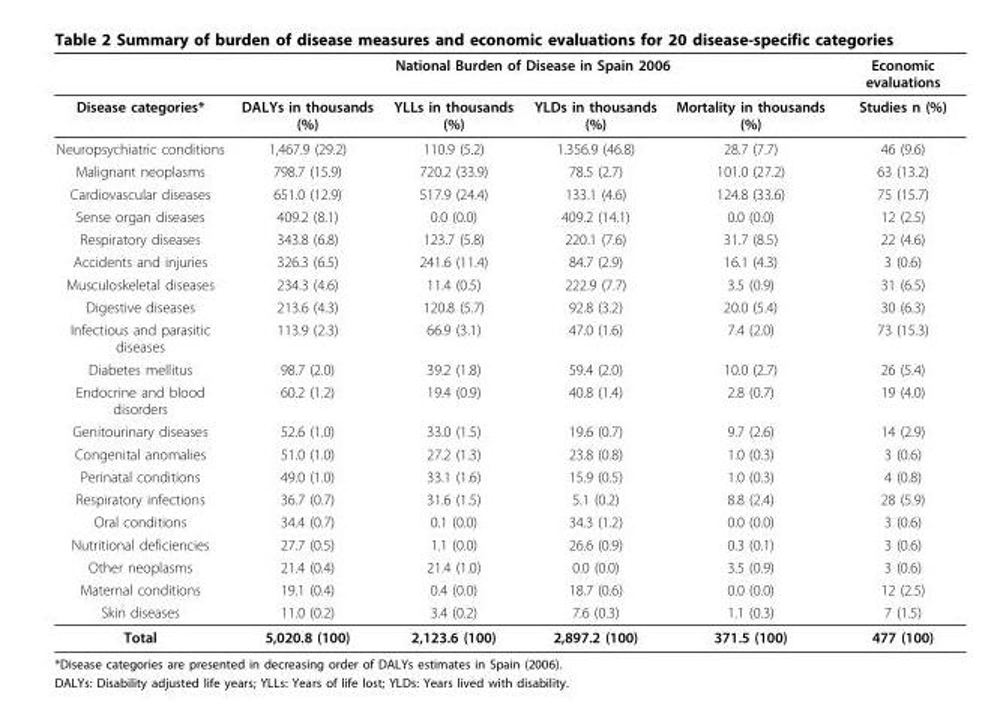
<table><thead><tr><td rowspan="2">Disease categories*</td><td colspan="4">National Burden of Disease in Spain 2006</td><td rowspan="2">Economic evaluations Studies n (%)</td></tr><tr><td>DALYs in thousands (%)</td><td>YLLs in thousands (%)</td><td>YLDs in thousands (%)</td><td>Mortality in thousands (%)</td></tr></thead><tbody><tr><td>Neuropsychiatric conditions</td><td>1,467.9 (29.2)</td><td>110.9 (5.2)</td><td>1.356.9 (46.8)</td><td>28.7 (7.7)</td><td>46 (9.6)</td></tr><tr><td>Malignant neoplasms</td><td>798.7 (15.9)</td><td>720.2 (33.9)</td><td>78.5 (2.7)</td><td>101.0 (27.2)</td><td>63 (13.2)</td></tr><tr><td>Cardiovascular diseases</td><td>651.0 (12.9)</td><td>517.9 (24.4)</td><td>133.1 (4.6)</td><td>124.8 (33.6)</td><td>75 (15.7)</td></tr><tr><td>Sense organ diseases</td><td>409.2 (8.1)</td><td>0.0 (0.0)</td><td>409.2 (14.1)</td><td>0.0 (0.0)</td><td>12 (2.5)</td></tr><tr><td>Respiratory diseases</td><td>343.8 (6.8)</td><td>123.7 (5.8)</td><td>220.1 (7.6)</td><td>31.7 (8.5)</td><td>22 (4.6)</td></tr><tr><td>Accidents and injuries</td><td>326.3 (6.5)</td><td>241.6 (11.4)</td><td>84.7 (2.9)</td><td>16.1 (4.3)</td><td>3 (0.6)</td></tr><tr><td>Musculoskeletal diseases</td><td>234.3 (4.6)</td><td>11.4 (0.5)</td><td>222.9 (7.7)</td><td>3.5 (0.9)</td><td>31 (6.5)</td></tr><tr><td>Digestive diseases</td><td>213.6 (4.3)</td><td>120.8 (5.7)</td><td>92.8 (3.2)</td><td>20.0 (5.4)</td><td>30 (6.3)</td></tr><tr><td>Infectious and parasitic diseases</td><td>113.9 (2.3)</td><td>66.9 (3.1)</td><td>47.0 (1.6)</td><td>7.4 (2.0)</td><td>73 (15.3)</td></tr><tr><td>Diabetes mellitus</td><td>98.7 (2.0)</td><td>39.2 (1.8)</td><td>59.4 (2.0)</td><td>10.0 (2.7)</td><td>26 (5.4)</td></tr><tr><td>Endocrine and blood disorders</td><td>60.2 (1.2)</td><td>19.4 (0.9)</td><td>40.8 (1.4)</td><td>2.8 (0.7)</td><td>19 (4.0)</td></tr><tr><td>Genitourinary diseases</td><td>52.6 (1.0)</td><td>33.0 (1.5)</td><td>19.6 (0.7)</td><td>9.7 (2.6)</td><td>14 (2.9)</td></tr><tr><td>Congenital anomalies</td><td>51.0 (1.0)</td><td>27.2 (1.3)</td><td>23.8 (0.8)</td><td>1.0 (0.3)</td><td>3 (0.6)</td></tr><tr><td>Perinatal conditions</td><td>49.0 (1.0)</td><td>33.1 (1.6)</td><td>15.9 (0.5)</td><td>1.0 (0.3)</td><td>4 (0.8)</td></tr><tr><td>Respiratory infections</td><td>36.7 (0.7)</td><td>31.6 (1.5)</td><td>5.1 (0.2)</td><td>8.8 (2.4)</td><td>28 (5.9)</td></tr><tr><td>Oral conditions</td><td>34.4 (0.7)</td><td>0.1 (0.0)</td><td>34.3 (1.2)</td><td>0.0 (0.0)</td><td>3 (0.6)</td></tr><tr><td>Nutritional deficiencies</td><td>27.7 (0.5)</td><td>1.1 (0.0)</td><td>26.6 (0.9)</td><td>0.3 (0.1)</td><td>3 (0.6)</td></tr><tr><td>Other neoplasms</td><td>21.4 (0.4)</td><td>21.4 (1.0)</td><td>0.0 (0.0)</td><td>3.5 (0.9)</td><td>3 (0.6)</td></tr><tr><td>Maternal conditions</td><td>19.1 (0.4)</td><td>0.4 (0.0)</td><td>18.7 (0.6)</td><td>0.0 (0.0)</td><td>12 (2.5)</td></tr><tr><td>Skin diseases</td><td>11.0 (0.2)</td><td>3.4 (0.2)</td><td>7.6 (0.3)</td><td>1.1 (0.3)</td><td>7 (1.5)</td></tr><tr><td>Total</td><td>5,020.8 (100)</td><td>2,123.6 (100)</td><td>2,897.2 (100)</td><td>371.5 (100)</td><td>477 (100)</td></tr></tbody></table>